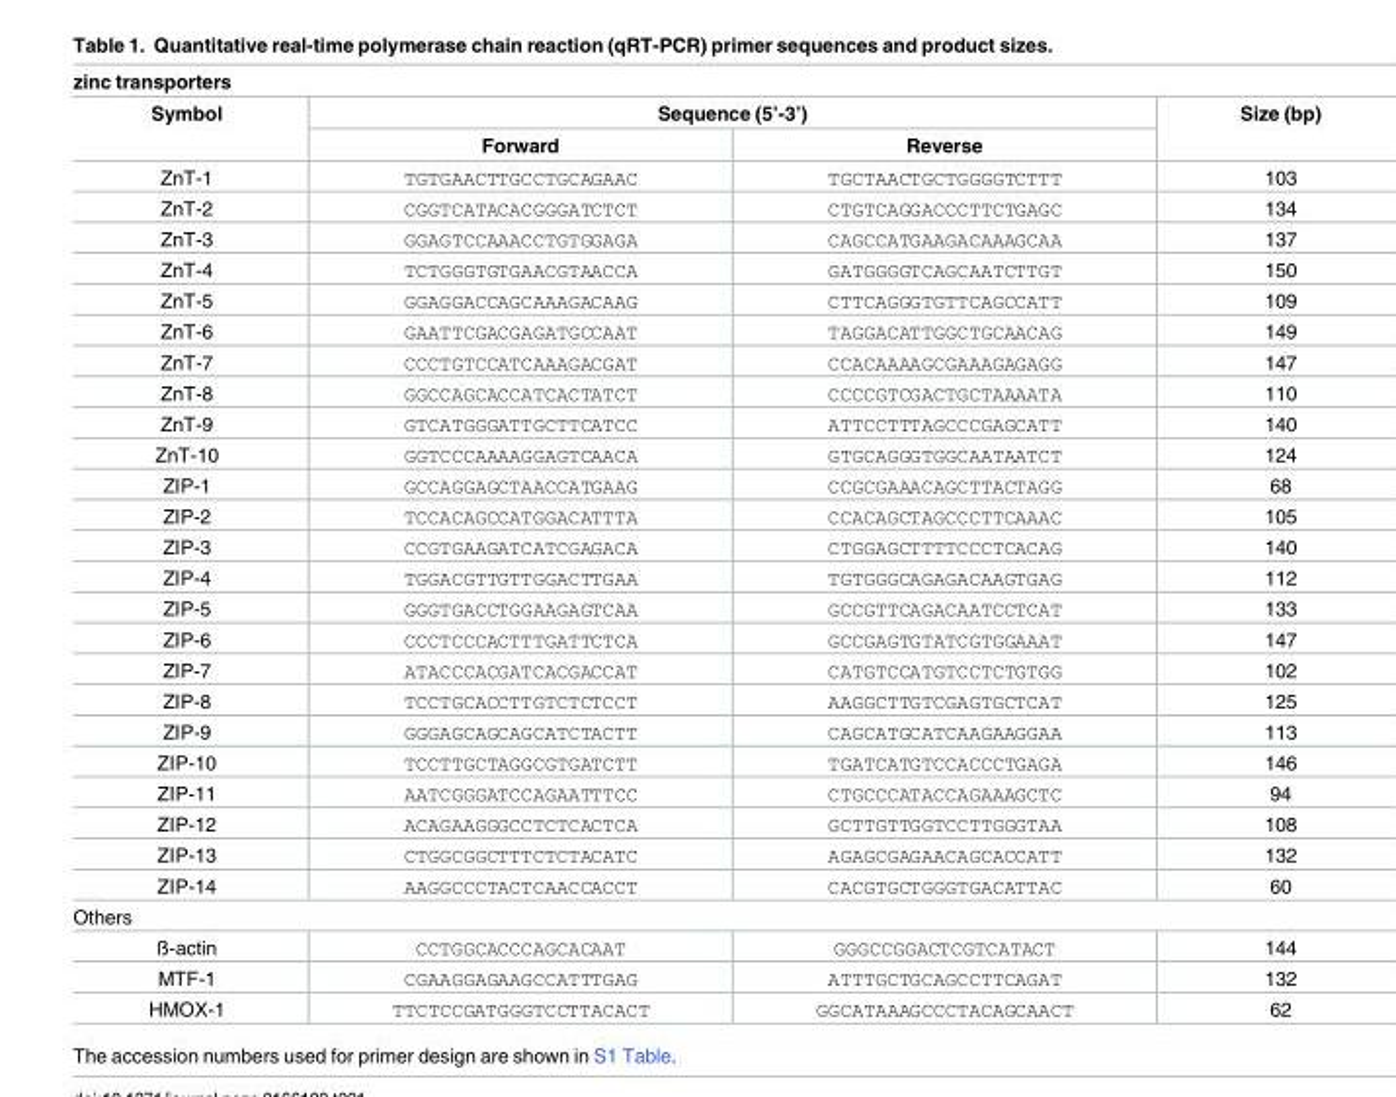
<table><thead><tr><td colspan="4">zinc transporters</td></tr><tr><td rowspan="2">Symbol</td><td colspan="2">Sequence (5’-3’)</td><td rowspan="2">Size (bp)</td></tr><tr><td>Forward</td><td>Reverse</td></tr></thead><tbody><tr><td>ZnT-1</td><td>TGTGAACTTGCCTGCAGAAC</td><td>TGCTAACTGCTGGGGTCTTT</td><td>103</td></tr><tr><td>ZnT-2</td><td>CGGTCATACACGGGATCTCT</td><td>CTGTCAGGACCCTTCTGAGC</td><td>134</td></tr><tr><td>ZnT-3</td><td>GGAGTCCAAACCTGTGGAGA</td><td>CAGCCATGAAGACAAAGCAA</td><td>137</td></tr><tr><td>ZnT-4</td><td>TCTGGGTGTGAACGTAACCA</td><td>GATGGGGTCAGCAATCTTGT</td><td>150</td></tr><tr><td>ZnT-5</td><td>GGAGGACCAGCAAAGACAAG</td><td>CTTCAGGGTGTTCAGCCATT</td><td>109</td></tr><tr><td>ZnT-6</td><td>GAATTCGACGAGATGCCAAT</td><td>TAGGACATTGGCTGCAACAG</td><td>149</td></tr><tr><td>ZnT-7</td><td>CCCTGTCCATCAAAGACGAT</td><td>CCACAAAAGCGAAAGAGAGG</td><td>147</td></tr><tr><td>ZnT-8</td><td>GGCCAGCACCATCACTATCT</td><td>CCCCGTCGACTGCTAAAATA</td><td>110</td></tr><tr><td>ZnT-9</td><td>GTCATGGGATTGCTTCATCC</td><td>ATTCCTTTAGCCCGAGCATT</td><td>140</td></tr><tr><td>ZnT-10</td><td>GGTCCCAAAAGGAGTCAACA</td><td>GTGCAGGGTGGCAATAATCT</td><td>124</td></tr><tr><td>ZIP-1</td><td>GCCAGGAGCTAACCATGAAG</td><td>CCGCGAAACAGCTTACTAGG</td><td>68</td></tr><tr><td>ZIP-2</td><td>TCCACAGCCATGGACATTTA</td><td>CCACAGCTAGCCCTTCAAAC</td><td>105</td></tr><tr><td>ZIP-3</td><td>CCGTGAAGATCATCGAGACA</td><td>CTGGAGCTTTTCCCTCACAG</td><td>140</td></tr><tr><td>ZIP-4</td><td>TGGACGTTGTTGGACTTGAA</td><td>TGTGGGCAGAGACAAGTGAG</td><td>112</td></tr><tr><td>ZIP-5</td><td>GGGTGACCTGGAAGAGTCAA</td><td>GCCGTTCAGACAATCCTCAT</td><td>133</td></tr><tr><td>ZIP-6</td><td>CCCTCCCACTTTGATTCTCA</td><td>GCCGAGTGTATCGTGGAAAT</td><td>147</td></tr><tr><td>ZIP-7</td><td>ATACCCACGATCACGACCAT</td><td>CATGTCCATGTCCTCTGTGG</td><td>102</td></tr><tr><td>ZIP-8</td><td>TCCTGCACCTTGTCTCTCCT</td><td>AAGGCTTGTCGAGTGCTCAT</td><td>125</td></tr><tr><td>ZIP-9</td><td>GGGAGCAGCAGCATCTACTT</td><td>CAGCATGCATCAAGAAGGAA</td><td>113</td></tr><tr><td>ZIP-10</td><td>TCCTTGCTAGGCGTGATCTT</td><td>TGATCATGTCCACCCTGAGA</td><td>146</td></tr><tr><td>ZIP-11</td><td>AATCGGGATCCAGAATTTCC</td><td>CTGCCCATACCAGAAAGCTC</td><td>94</td></tr><tr><td>ZIP-12</td><td>ACAGAAGGGCCTCTCACTCA</td><td>GCTTGTTGGTCCTTGGGTAA</td><td>108</td></tr><tr><td>ZIP-13</td><td>CTGGCGGCTTTCTCTACATC</td><td>AGAGCGAGAACAGCACCATT</td><td>132</td></tr><tr><td>ZIP-14</td><td>AAGGCCCTACTCAACCACCT</td><td>CACGTGCTGGGTGACATTAC</td><td>60</td></tr><tr><td colspan="4">Others</td></tr><tr><td>ß-actin</td><td>CCTGGCACCCAGCACAAT</td><td>GGGCCGGACTCGTCATACT</td><td>144</td></tr><tr><td>MTF-1</td><td>CGAAGGAGAAGCCATTTGAG</td><td>ATTTGCTGCAGCCTTCAGAT</td><td>132</td></tr><tr><td>HMOX-1</td><td>TTCTCCGATGGGTCCTTACACT</td><td>GGCATAAAGCCCTACAGCAACT</td><td>62</td></tr></tbody></table>